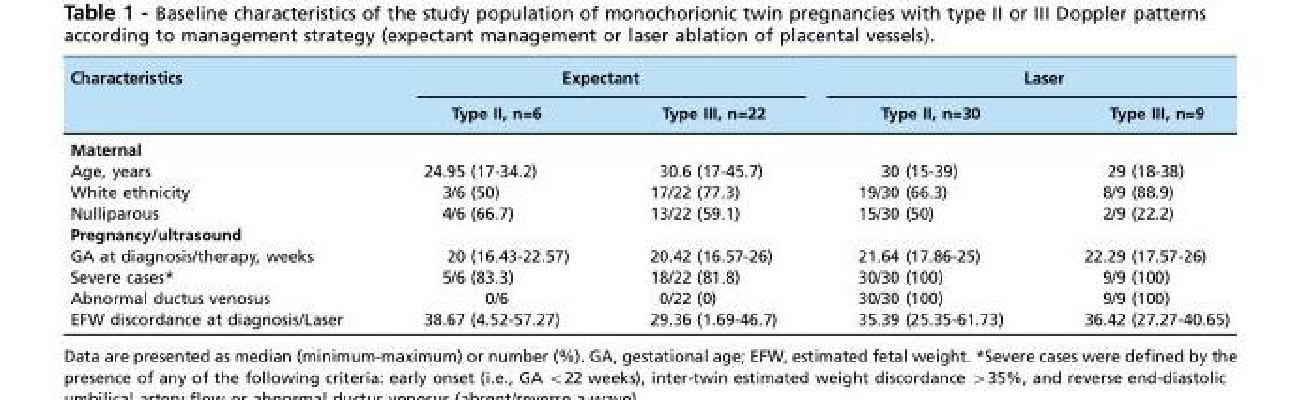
<table><thead><tr><td rowspan="2">Characteristics</td><td colspan="2">Expectant</td><td colspan="2">Laser</td></tr><tr><td>Type II, n=6</td><td>Type III, n=22</td><td>Type II, n=30</td><td>Type III, n=9</td></tr></thead><tbody><tr><td colspan="5">Maternal</td></tr><tr><td>Age, years</td><td>24.95 (17-34.2)</td><td>30.6 (17-45.7)</td><td>30 (15-39)</td><td>29 (18-38)</td></tr><tr><td>White ethnicity</td><td>3/6 (50)</td><td>17/22 (77.3)</td><td>19/30 (66.3)</td><td>8/9 (88.9)</td></tr><tr><td>Nulliparous</td><td>4/6 (66.7)</td><td>13/22 (59.1)</td><td>15/30 (50)</td><td>2/9 (22.2)</td></tr><tr><td colspan="5">Pregnancy/ultrasound</td></tr><tr><td>GA at diagnosis/therapy, weeks</td><td>20 (16.43-22.57)</td><td>20.42 (16.57-26)</td><td>21.64 (17.86-25)</td><td>22.29 (17.57-26)</td></tr><tr><td>Severe cases*</td><td>5/6 (83.3)</td><td>18/22 (81.8)</td><td>30/30 (100)</td><td>9/9 (100)</td></tr><tr><td>Abnormal ductus venosus</td><td>0/6</td><td>0/22 (0)</td><td>30/30 (100)</td><td>9/9 (100)</td></tr><tr><td>EFW discordance at diagnosis/Laser</td><td>38.67 (4.52-57.27)</td><td>29.36 (1.69-46.7)</td><td>35.39 (25.35-61.73)</td><td>36.42 (27.27-40.65)</td></tr></tbody></table>